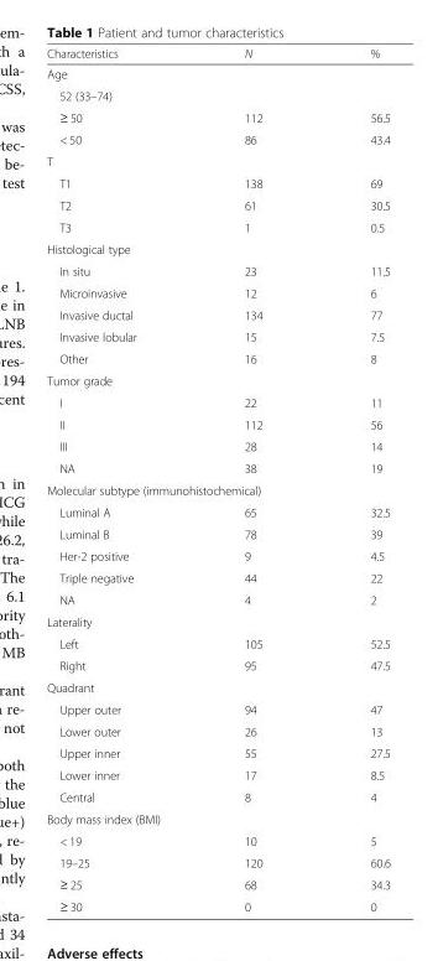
<table><thead><tr><td>Characteristics</td><td>N</td><td>%</td></tr></thead><tbody><tr><td colspan="3">Age</td></tr><tr><td colspan="3">52 (33–74)</td></tr><tr><td>≥ 50</td><td>112</td><td>56.5</td></tr><tr><td>&lt; 50</td><td>86</td><td>43.4</td></tr><tr><td colspan="3">T</td></tr><tr><td>T1</td><td>138</td><td>69</td></tr><tr><td>T2</td><td>61</td><td>30.5</td></tr><tr><td>T3</td><td>1</td><td>0.5</td></tr><tr><td colspan="3">Histological type</td></tr><tr><td>In situ</td><td>23</td><td>11.5</td></tr><tr><td>Microinvasive</td><td>12</td><td>6</td></tr><tr><td>Invasive ductal</td><td>134</td><td>77</td></tr><tr><td>Invasive lobular</td><td>15</td><td>7.5</td></tr><tr><td>Other</td><td>16</td><td>8</td></tr><tr><td colspan="3">Tumor grade</td></tr><tr><td>I</td><td>22</td><td>11</td></tr><tr><td>II</td><td>112</td><td>56</td></tr><tr><td>III</td><td>28</td><td>14</td></tr><tr><td>NA</td><td>38</td><td>19</td></tr><tr><td colspan="3">Molecular subtype (immunohistochemical)</td></tr><tr><td>Luminal A</td><td>65</td><td>32.5</td></tr><tr><td>Luminal B</td><td>78</td><td>39</td></tr><tr><td>Her-2 positive</td><td>9</td><td>4.5</td></tr><tr><td>Triple negative</td><td>44</td><td>22</td></tr><tr><td>NA</td><td>4</td><td>2</td></tr><tr><td colspan="3">Laterality</td></tr><tr><td>Left</td><td>105</td><td>52.5</td></tr><tr><td>Right</td><td>95</td><td>47.5</td></tr><tr><td colspan="3">Quadrant</td></tr><tr><td>Upper outer</td><td>94</td><td>47</td></tr><tr><td>Lower outer</td><td>26</td><td>13</td></tr><tr><td>Upper inner</td><td>55</td><td>27.5</td></tr><tr><td>Lower inner</td><td>17</td><td>8.5</td></tr><tr><td>Central</td><td>8</td><td>4</td></tr><tr><td colspan="3">Body mass index (BMI)</td></tr><tr><td>&lt; 19</td><td>10</td><td>5</td></tr><tr><td>19–25</td><td>120</td><td>60.6</td></tr><tr><td>≥ 25</td><td>68</td><td>34.3</td></tr><tr><td>≥ 30</td><td>0</td><td>0</td></tr></tbody></table>